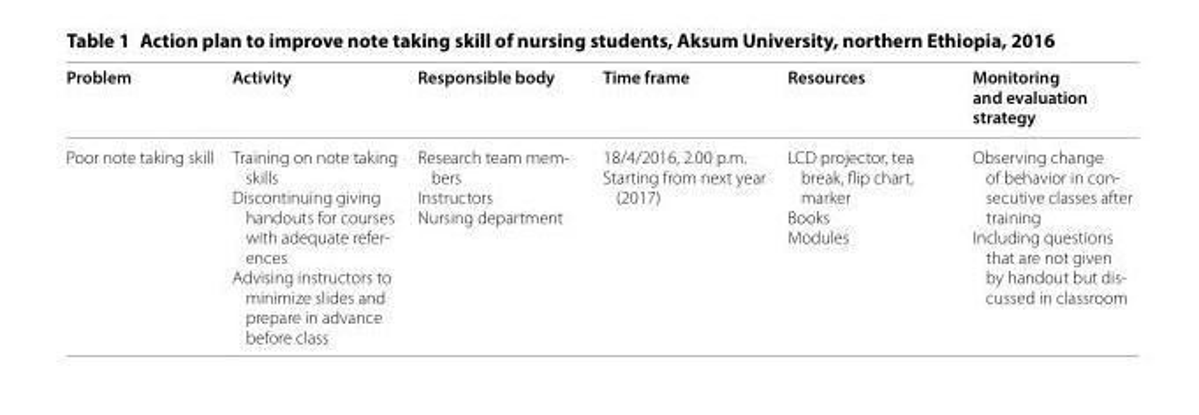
<table><thead><tr><td>Problem</td><td>Activity</td><td>Responsible body</td><td>Time frame</td><td>Resources</td><td>Monitoring and evaluation strategy</td></tr></thead><tbody><tr><td>Poor note taking skill</td><td>Training on note taking skills Discontinuing giving handouts for courses with adequate refer- ences Advising instructors to minimize slides and prepare in advance before class</td><td>Research team mem- bers Instructors Nursing department</td><td>18/4/2016, 2.00 p.m. Starting from next year (2017)</td><td>LCD projector, tea break, flip chart, marker Books Modules</td><td>Observing change of behavior in con- secutive classes after training Including questions that are not given by handout but dis- cussed in classroom</td></tr></tbody></table>